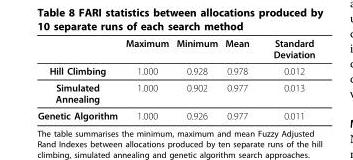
<table><thead><tr><td></td><td>Maximum</td><td>Minimum</td><td>Mean</td><td>Standard Deviation</td></tr></thead><tbody><tr><td>Hill Climbing</td><td>1.000</td><td>0.928</td><td>0.978</td><td>0.012</td></tr><tr><td>Simulated Annealing</td><td>1.000</td><td>0.902</td><td>0.977</td><td>0.013</td></tr><tr><td>Genetic Algorithm</td><td>1.000</td><td>0.926</td><td>0.977</td><td>0.011</td></tr></tbody></table>